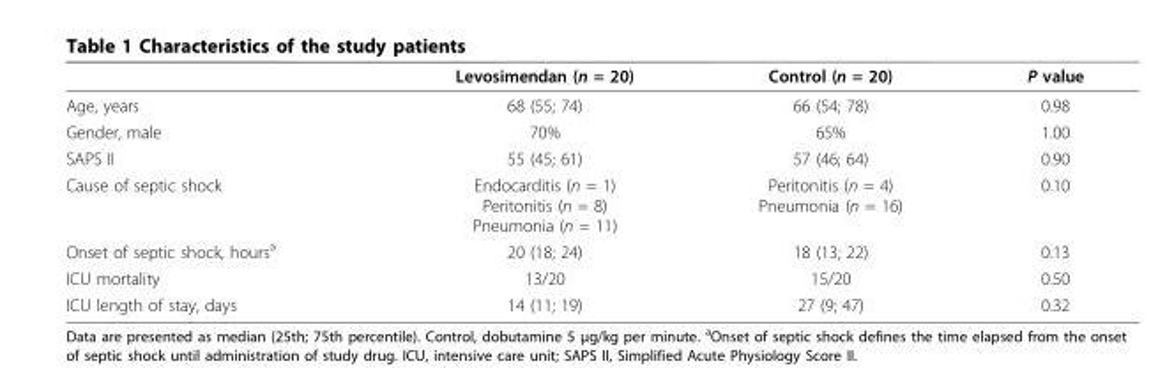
<table><thead><tr><td></td><td>Levosimendan (n = 20)</td><td>Control (n = 20)</td><td>P value</td></tr></thead><tbody><tr><td>Age, years</td><td>68 (55; 74)</td><td>66 (54; 78)</td><td>0.98</td></tr><tr><td>Gender, male</td><td>70%</td><td>65%</td><td>1.00</td></tr><tr><td>SAPS II</td><td>55 (45; 61)</td><td>57 (46; 64)</td><td>0.90</td></tr><tr><td>Cause of septic shock</td><td>Endocarditis (n = 1) Peritonitis (n = 8) Pneumonia (n = 11)</td><td>Peritonitis (n = 4) Pneumonia (n = 16)</td><td>0.10</td></tr><tr><td>Onset of septic shock, hours<sup>a</sup></td><td>20 (18; 24)</td><td>18 (13; 22)</td><td>0.13</td></tr><tr><td>ICU mortality</td><td>13/20</td><td>15/20</td><td>0.50</td></tr><tr><td>ICU length of stay, days</td><td>14 (11; 19)</td><td>27 (9; 47)</td><td>0.32</td></tr></tbody></table>